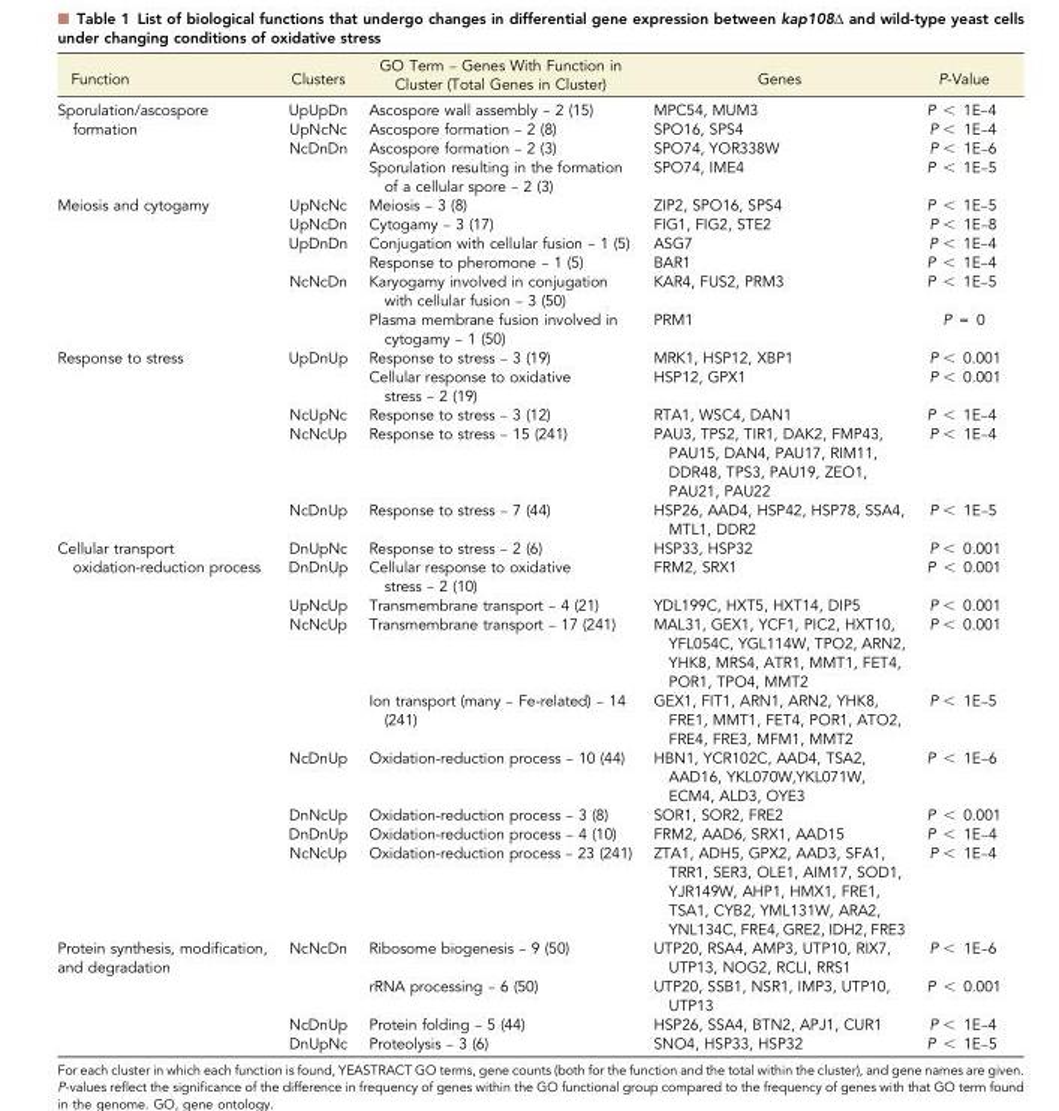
<table><thead><tr><td>Function</td><td>Clusters</td><td>GO Term – Genes With Function in Cluster (Total Genes in Cluster)</td><td>Genes</td><td>P-Value</td></tr></thead><tbody><tr><td rowspan="4">Sporulation/ascospore formation</td><td>UpUpDn</td><td>Ascospore wall assembly – 2 (15)</td><td>MPC54, MUM3</td><td>P &lt; 1E–4</td></tr><tr><td>UpNcNc</td><td>Ascospore formation – 2 (8)</td><td>SPO16, SPS4</td><td>P &lt; 1E–4</td></tr><tr><td>NcDnDn</td><td>Ascospore formation – 2 (3)</td><td>SPO74, YOR338W</td><td>P &lt; 1E–6</td></tr><tr><td></td><td>Sporulation resulting in the formation of a cellular spore – 2 (3)</td><td>SPO74, IME4</td><td>P &lt; 1E–5</td></tr><tr><td rowspan="6">Meiosis and cytogamy</td><td>UpNcNc</td><td>Meiosis – 3 (8)</td><td>ZIP2, SPO16, SPS4</td><td>P &lt; 1E–5</td></tr><tr><td>UpNcDn</td><td>Cytogamy – 3 (17)</td><td>FIG1, FIG2, STE2</td><td>P &lt; 1E–8</td></tr><tr><td>UpDnDn</td><td>Conjugation with cellular fusion – 1 (5)</td><td>ASG7</td><td>P &lt; 1E–4</td></tr><tr><td></td><td>Response to pheromone – 1 (5)</td><td>BAR1</td><td>P &lt; 1E–4</td></tr><tr><td>NcNcDn</td><td>Karyogamy involved in conjugation with cellular fusion – 3 (50)</td><td>KAR4, FUS2, PRM3</td><td>P &lt; 1E–5</td></tr><tr><td></td><td>Plasma membrane fusion involved in cytogamy – 1 (50)</td><td>PRM1</td><td>P = 0</td></tr><tr><td rowspan="5">Response to stress</td><td>UpDnUp</td><td>Response to stress – 3 (19)</td><td>MRK1, HSP12, XBP1</td><td>P &lt; 0.001</td></tr><tr><td></td><td>Cellular response to oxidative stress – 2 (19)</td><td>HSP12, GPX1</td><td>P &lt; 0.001</td></tr><tr><td>NcUpNc</td><td>Response to stress – 3 (12)</td><td>RTA1, WSC4, DAN1</td><td>P &lt; 1E–4</td></tr><tr><td>NcNcUp</td><td>Response to stress – 15 (241)</td><td>PAU3, TPS2, TIR1, DAK2, FMP43, PAU15, DAN4, PAU17, RIM11, DDR48, TPS3, PAU19, ZEO1, PAU21, PAU22</td><td>P &lt; 1E–4</td></tr><tr><td>NcDnUp</td><td>Response to stress – 7 (44)</td><td>HSP26, AAD4, HSP42, HSP78, SSA4, MTL1, DDR2</td><td>P &lt; 1E–5</td></tr><tr><td rowspan="9">Cellular transport oxidation-reduction process</td><td>DnUpNc</td><td>Response to stress – 2 (6)</td><td>HSP33, HSP32</td><td>P &lt; 0.001</td></tr><tr><td>DnDnUp</td><td>Cellular response to oxidative stress – 2 (10)</td><td>FRM2, SRX1</td><td>P &lt; 0.001</td></tr><tr><td>UpNcUp</td><td>Transmembrane transport – 4 (21)</td><td>YDL199C, HXT5, HXT14, DIP5</td><td>P &lt; 0.001</td></tr><tr><td>NcNcUp</td><td>Transmembrane transport – 17 (241)</td><td>MAL31, GEX1, YCF1, PIC2, HXT10, YFL054C, YGL114W, TPO2, ARN2, YHK8, MRS4, ATR1, MMT1, FET4, POR1, TPO4, MMT2</td><td>P &lt; 0.001</td></tr><tr><td></td><td>Ion transport (many – Fe-related) – 14 (241)</td><td>GEX1, FIT1, ARN1, ARN2, YHK8, FRE1, MMT1, FET4, POR1, ATO2, FRE4, FRE3, MFM1, MMT2</td><td>P &lt; 1E–5</td></tr><tr><td>NcDnUp</td><td>Oxidation-reduction process – 10 (44)</td><td>HBN1, YCR102C, AAD4, TSA2, AAD16, YKL070W,YKL071W, ECM4, ALD3, OYE3</td><td>P &lt; 1E–6</td></tr><tr><td>DnNcUp</td><td>Oxidation-reduction process – 3 (8)</td><td>SOR1, SOR2, FRE2</td><td>P &lt; 0.001</td></tr><tr><td>DnDnUp</td><td>Oxidation-reduction process – 4 (10)</td><td>FRM2, AAD6, SRX1, AAD15</td><td>P &lt; 1E–4</td></tr><tr><td>NcNcUp</td><td>Oxidation-reduction process – 23 (241)</td><td>ZTA1, ADH5, GPX2, AAD3, SFA1, TRR1, SER3, OLE1, AIM17, SOD1, YJR149W, AHP1, HMX1, FRE1, TSA1, CYB2, YML131W, ARA2, YNL134C, FRE4, GRE2, IDH2, FRE3</td><td>P &lt; 1E–4</td></tr><tr><td rowspan="4">Protein synthesis, modification, and degradation</td><td>NcNcDn</td><td>Ribosome biogenesis – 9 (50)</td><td>UTP20, RSA4, AMP3, UTP10, RIX7, UTP13, NOG2, RCLI, RRS1</td><td>P &lt; 1E–6</td></tr><tr><td></td><td>rRNA processing – 6 (50)</td><td>UTP20, SSB1, NSR1, IMP3, UTP10, UTP13</td><td>P &lt; 0.001</td></tr><tr><td>NcDnUp</td><td>Protein folding – 5 (44)</td><td>HSP26, SSA4, BTN2, APJ1, CUR1</td><td>P &lt; 1E–4</td></tr><tr><td>DnUpNc</td><td>Proteolysis – 3 (6)</td><td>SNO4, HSP33, HSP32</td><td>P &lt; 1E–5</td></tr></tbody></table>